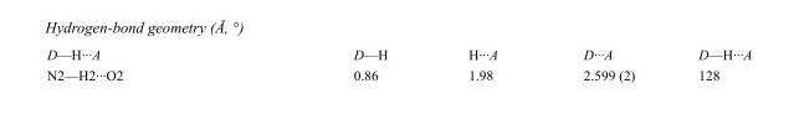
<table><tbody><tr><td>D—H···A</td><td>D—H</td><td>H···A</td><td>D···A</td><td>D—H···A</td></tr><tr><td>N2—H2···O2</td><td>0.86</td><td>1.98</td><td>2.599 (2)</td><td>128</td></tr></tbody></table>